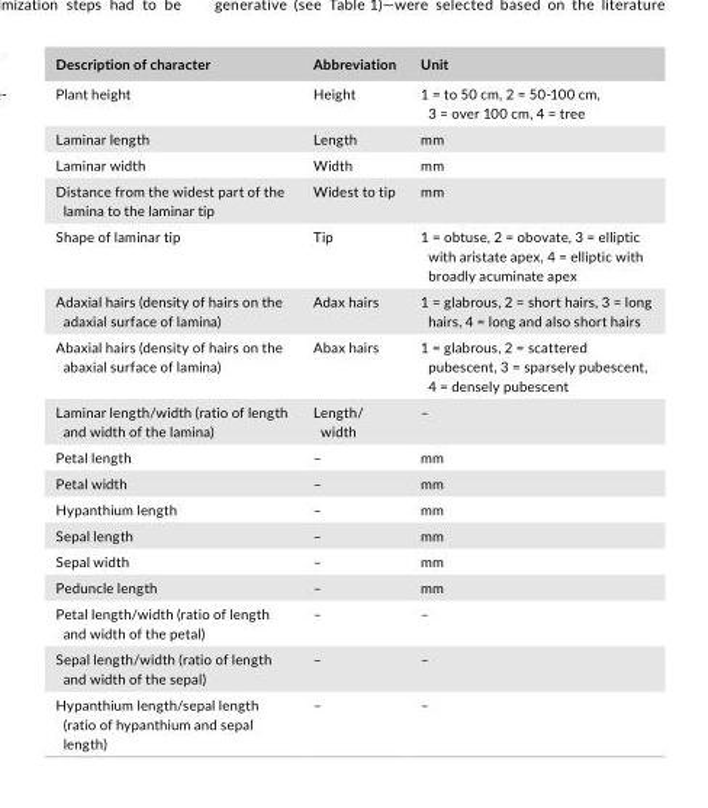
<table><thead><tr><td>Descriptionofcharacter</td><td>Abbreviation</td><td>Unit</td></tr></thead><tbody><tr><td>Plant height</td><td>Height</td><td>1 = to 50 cm, 2 = 50- 100 cm, 3 = over 100 cm, 4 = tree</td></tr><tr><td>Laminar length</td><td>Length</td><td>mm</td></tr><tr><td>Laminar width</td><td>Width</td><td>mm</td></tr><tr><td>Distance from the widest part of the lamina to the laminar tip</td><td>Widest to tip</td><td>mm</td></tr><tr><td>Shape of laminar tip</td><td>Tip</td><td>1 = obtuse, 2 = obovate, 3 = elliptic with aristate apex, 4 = elliptic with broadly acuminate apex</td></tr><tr><td>Adaxial hairs (density of hairs on the adaxial surface of lamina)</td><td>Adax hairs</td><td>1 = glabrous, 2 = short hairs, 3 = long hairs, 4 = long and also short hairs</td></tr><tr><td>Abaxial hairs (density of hairs on the abaxial surface of lamina)</td><td>Abax hairs</td><td>1 = glabrous, 2 = scattered pubescent, 3 = sparsely pubescent, 4 = densely pubescent</td></tr><tr><td>Laminar length/width (ratio of length and width of the lamina)</td><td>Length/ width</td><td>–</td></tr><tr><td>Petal length</td><td>–</td><td>mm</td></tr><tr><td>Petal width</td><td>–</td><td>mm</td></tr><tr><td>Hypanthium length</td><td>–</td><td>mm</td></tr><tr><td>Sepal length</td><td>–</td><td>mm</td></tr><tr><td>Sepal width</td><td>–</td><td>mm</td></tr><tr><td>Peduncle length</td><td>–</td><td>mm</td></tr><tr><td>Petal length/width (ratio of length and width of the petal)</td><td>–</td><td>–</td></tr><tr><td>Sepal length/width (ratio of length and width of the sepal)</td><td>–</td><td>–</td></tr><tr><td>Hypanthium length/sepal length (ratio of hypanthium and sepal length)</td><td>–</td><td>–</td></tr></tbody></table>